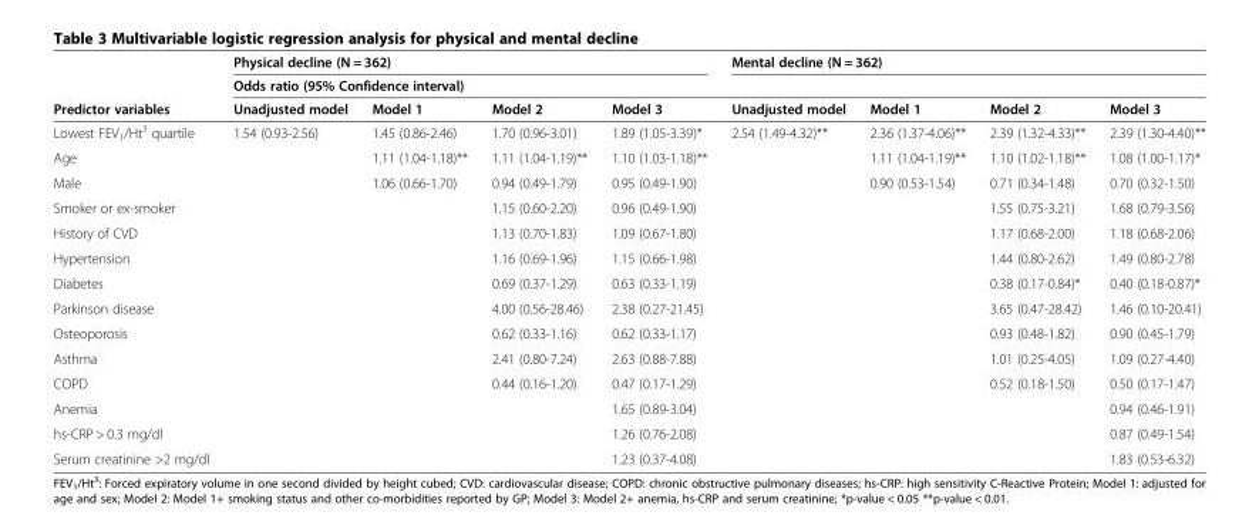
<table><thead><tr><td rowspan="3">Predictor variables</td><td colspan="4">Physical decline (N = 362)</td><td colspan="4">Mental decline (N = 362)</td></tr><tr><td colspan="8">Odds ratio (95% Confidence interval)</td></tr><tr><td>Unadjusted model</td><td>Model 1</td><td>Model 2</td><td>Model 3</td><td>Unadjusted model</td><td>Model 1</td><td>Model 2</td><td>Model 3</td></tr></thead><tbody><tr><td>Lowest FEV<sub>1</sub>/Ht<sup>3</sup> quartile</td><td>1.54 (0.93-2.56)</td><td>1.45 (0.86-2.46)</td><td>1.70 (0.96-3.01)</td><td>1.89 (1.05-3.39)*</td><td>2.54 (1.49-4.32)**</td><td>2.36 (1.37-4.06)**</td><td>2.39 (1.32-4.33)**</td><td>2.39 (1.30-4.40)**</td></tr><tr><td>Age</td><td></td><td>1.11 (1.04-1.18)**</td><td>1.11 (1.04-1.19)**</td><td>1.10 (1.03-1.18)**</td><td></td><td>1.11 (1.04-1.19)**</td><td>1.10 (1.02-1.18)**</td><td>1.08 (1.00-1.17)*</td></tr><tr><td>Male</td><td></td><td>1.06 (0.66-1.70)</td><td>0.94 (0.49-1.79)</td><td>0.95 (0.49-1.90)</td><td></td><td>0.90 (0.53-1.54)</td><td>0.71 (0.34-1.48)</td><td>0.70 (0.32-1.50)</td></tr><tr><td>Smoker or ex-smoker</td><td></td><td></td><td>1.15 (0.60-2.20)</td><td>0.96 (0.49-1.90)</td><td></td><td></td><td>1.55 (0.75-3.21)</td><td>1.68 (0.79-3.56)</td></tr><tr><td>History of CVD</td><td></td><td></td><td>1.13 (0.70-1.83)</td><td>1.09 (0.67-1.80)</td><td></td><td></td><td>1.17 (0.68-2.00)</td><td>1.18 (0.68-2.06)</td></tr><tr><td>Hypertension</td><td></td><td></td><td>1.16 (0.69-1.96)</td><td>1.15 (0.66-1.98)</td><td></td><td></td><td>1.44 (0.80-2.62)</td><td>1.49 (0.80-2.78)</td></tr><tr><td>Diabetes</td><td></td><td></td><td>0.69 (0.37-1.29)</td><td>0.63 (0.33-1.19)</td><td></td><td></td><td>0.38 (0.17-0.84)*</td><td>0.40 (0.18-0.87)*</td></tr><tr><td>Parkinson disease</td><td></td><td></td><td>4.00 (0.56-28.46)</td><td>2.38 (0.27-21.45)</td><td></td><td></td><td>3.65 (0.47-28.42)</td><td>1.46 (0.10-20.41)</td></tr><tr><td>Osteoporosis</td><td></td><td></td><td>0.62 (0.33-1.16)</td><td>0.62 (0.33-1.17)</td><td></td><td></td><td>0.93 (0.48-1.82)</td><td>0.90 (0.45-1.79)</td></tr><tr><td>Asthma</td><td></td><td></td><td>2.41 (0.80-7.24)</td><td>2.63 (0.88-7.88)</td><td></td><td></td><td>1.01 (0.25-4.05)</td><td>1.09 (0.27-4.40)</td></tr><tr><td>COPD</td><td></td><td></td><td>0.44 (0.16-1.20)</td><td>0.47 (0.17-1.29)</td><td></td><td></td><td>0.52 (0.18-1.50)</td><td>0.50 (0.17-1.47)</td></tr><tr><td>Anemia</td><td></td><td></td><td></td><td>1.65 (0.89-3.04)</td><td></td><td></td><td></td><td>0.94 (0.46-1.91)</td></tr><tr><td>hs-CRP &gt; 0.3 mg/dl</td><td></td><td></td><td></td><td>1.26 (0.76-2.08)</td><td></td><td></td><td></td><td>0.87 (0.49-1.54)</td></tr><tr><td>Serum creatinine &gt;2 mg/dl</td><td></td><td></td><td></td><td>1.23 (0.37-4.08)</td><td></td><td></td><td></td><td>1.83 (0.53-6.32)</td></tr></tbody></table>